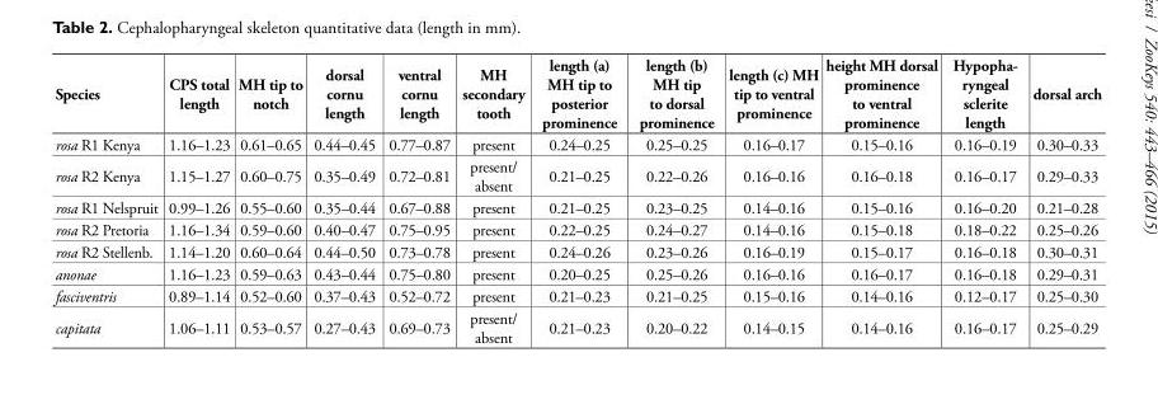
<table><thead><tr><td>Species</td><td>CPS total length</td><td>MH tip to notch</td><td>dorsal cornu length</td><td>ventral cornu length</td><td>MH secondary tooth</td><td>length (a) MH tip to posterior prominence</td><td>length (b) MH tip to dorsal prominence</td><td>length (c) MH tip to ventral prominence</td><td>height MH dorsal prominence to ventral prominence</td><td>Hypopha- ryn geal sclerite length</td><td>dorsal arch</td></tr></thead><tbody><tr><td>rosa R1 Kenya</td><td>1.16–1.23</td><td>0.61–0.65</td><td>0.44–0.45</td><td>0.77–0.87</td><td>present</td><td>0.24–0.25</td><td>0.25–0.25</td><td>0.16–0.17</td><td>0.15–0.16</td><td>0.16–0.19</td><td>0.30–0.33</td></tr><tr><td>rosa R2 Kenya</td><td>1.15–1.27</td><td>0.60–0.75</td><td>0.35–0.49</td><td>0.72–0.81</td><td>present/ absent</td><td>0.21–0.25</td><td>0.22–0.26</td><td>0.16–0.16</td><td>0.16–0.18</td><td>0.16–0.17</td><td>0.29–0.33</td></tr><tr><td>rosa R1 Nelspruit</td><td>0.99–1.26</td><td>0.55–0.60</td><td>0.35–0.44</td><td>0.67–0.88</td><td>present</td><td>0.21–0.25</td><td>0.23–0.25</td><td>0.14–0.16</td><td>0.15–0.16</td><td>0.16–0.20</td><td>0.21–0.28</td></tr><tr><td>rosa R2 Pretoria</td><td>1.16–1.34</td><td>0.59–0.60</td><td>0.40–0.47</td><td>0.75–0.95</td><td>present</td><td>0.22–0.25</td><td>0.24–0.27</td><td>0.14–0.16</td><td>0.15–0.18</td><td>0.18–0.22</td><td>0.25–0.26</td></tr><tr><td>rosa R2 Stellenb.</td><td>1.14–1.20</td><td>0.60–0.64</td><td>0.44–0.50</td><td>0.73–0.78</td><td>present</td><td>0.24–0.26</td><td>0.23–0.26</td><td>0.16–0.19</td><td>0.15–0.17</td><td>0.16–0.18</td><td>0.30–0.31</td></tr><tr><td>anonae</td><td>1.16–1.23</td><td>0.59–0.63</td><td>0.43–0.44</td><td>0.75–0.80</td><td>present</td><td>0.20–0.25</td><td>0.25–0.26</td><td>0.16–0.16</td><td>0.16–0.17</td><td>0.16–0.18</td><td>0.29–0.31</td></tr><tr><td>fasciventris</td><td>0.89–1.14</td><td>0.52–0.60</td><td>0.37–0.43</td><td>0.52–0.72</td><td>present</td><td>0.21–0.23</td><td>0.21–0.25</td><td>0.15–0.16</td><td>0.14–0.16</td><td>0.12–0.17</td><td>0.25–0.30</td></tr><tr><td>capitata</td><td>1.06–1.11</td><td>0.53–0.57</td><td>0.27–0.43</td><td>0.69–0.73</td><td>present/ absent</td><td>0.21–0.23</td><td>0.20–0.22</td><td>0.14–0.15</td><td>0.14–0.16</td><td>0.16–0.17</td><td>0.25–0.29</td></tr></tbody></table>